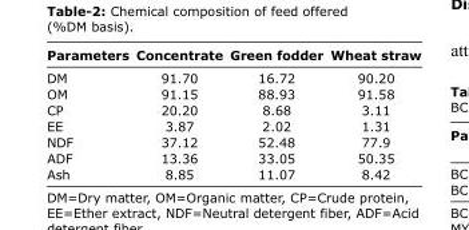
<table><thead><tr><td>Parameters</td><td>Concentrate</td><td>Green fodder</td><td>Wheat straw</td></tr></thead><tbody><tr><td>DM</td><td>91.70</td><td>16.72</td><td>90.20</td></tr><tr><td>OM</td><td>91.15</td><td>88.93</td><td>91.58</td></tr><tr><td>CP</td><td>20.20</td><td>8.68</td><td>3.11</td></tr><tr><td>EE</td><td>3.87</td><td>2.02</td><td>1.31</td></tr><tr><td>NDF</td><td>37.12</td><td>52.48</td><td>77.9</td></tr><tr><td>ADF</td><td>13.36</td><td>33.05</td><td>50.35</td></tr><tr><td>Ash</td><td>8.85</td><td>11.07</td><td>8.42</td></tr></tbody></table>